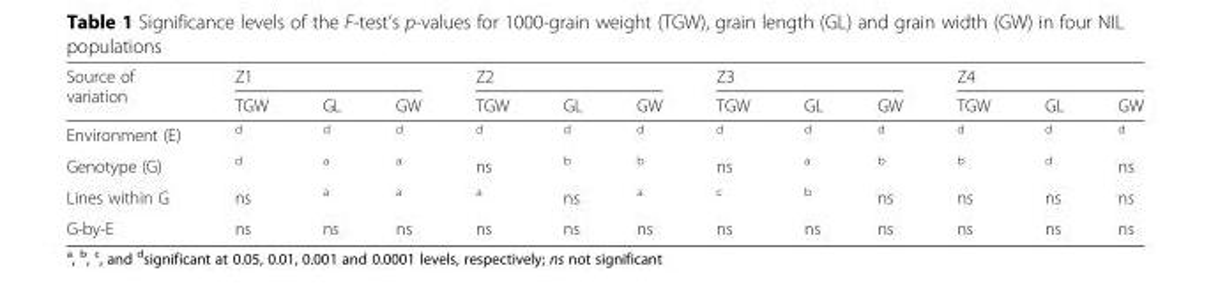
<table><thead><tr><td rowspan="2">Source of variation</td><td colspan="3">Z1</td><td colspan="3">Z2</td><td colspan="3">Z3</td><td colspan="3">Z4</td></tr><tr><td>TGW</td><td>GL</td><td>GW</td><td>TGW</td><td>GL</td><td>GW</td><td>TGW</td><td>GL</td><td>GW</td><td>TGW</td><td>GL</td><td>GW</td></tr></thead><tbody><tr><td>Environment (E)</td><td><sup>d</sup></td><td><sup>d</sup></td><td><sup>d</sup></td><td><sup>d</sup></td><td><sup>d</sup></td><td><sup>d</sup></td><td><sup>d</sup></td><td><sup>d</sup></td><td><sup>d</sup></td><td><sup>d</sup></td><td><sup>d</sup></td><td><sup>d</sup></td></tr><tr><td>Genotype (G)</td><td><sup>d</sup></td><td><sup>a</sup></td><td><sup>a</sup></td><td>ns</td><td><sup>b</sup></td><td><sup>b</sup></td><td>ns</td><td><sup>a</sup></td><td><sup>b</sup></td><td><sup>b</sup></td><td><sup>d</sup></td><td>ns</td></tr><tr><td>Lines within G</td><td>ns</td><td><sup>a</sup></td><td><sup>a</sup></td><td><sup>a</sup></td><td>ns</td><td><sup>a</sup></td><td><sup>c</sup></td><td><sup>b</sup></td><td>ns</td><td>ns</td><td>ns</td><td>ns</td></tr><tr><td>G-by-E</td><td>ns</td><td>ns</td><td>ns</td><td>ns</td><td>ns</td><td>ns</td><td>ns</td><td>ns</td><td>ns</td><td>ns</td><td>ns</td><td>ns</td></tr></tbody></table>